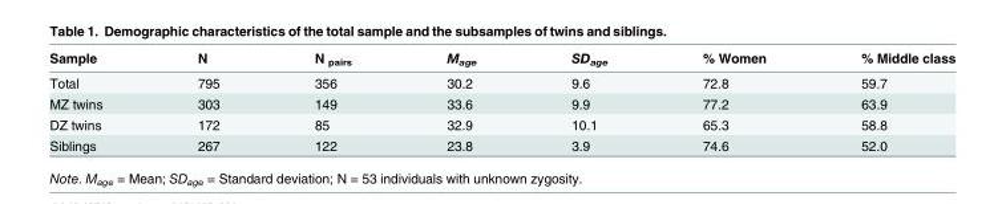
<table><thead><tr><td>Sample</td><td>N</td><td>N <sub>pairs</sub></td><td>M<sub>age</sub></td><td>SD<sub>age</sub></td><td>% Women</td><td>% Middle class</td></tr></thead><tbody><tr><td>Total</td><td>795</td><td>356</td><td>30.2</td><td>9.6</td><td>72.8</td><td>59.7</td></tr><tr><td>MZ twins</td><td>303</td><td>149</td><td>33.6</td><td>9.9</td><td>77.2</td><td>63.9</td></tr><tr><td>DZ twins</td><td>172</td><td>85</td><td>32.9</td><td>10.1</td><td>65.3</td><td>58.8</td></tr><tr><td>Siblings</td><td>267</td><td>122</td><td>23.8</td><td>3.9</td><td>74.6</td><td>52.0</td></tr></tbody></table>